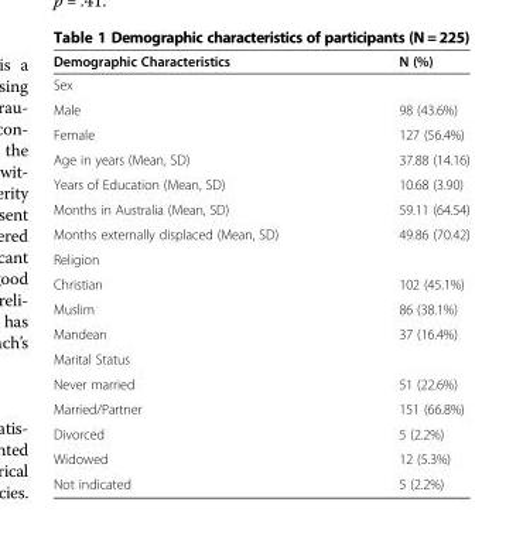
<table><thead><tr><td>Demographic Characteristics</td><td>N (%)</td></tr></thead><tbody><tr><td colspan="2">Sex</td></tr><tr><td>Male</td><td>98 (43.6%)</td></tr><tr><td>Female</td><td>127 (56.4%)</td></tr><tr><td>Age in years (Mean, SD)</td><td>37.88 (14.16)</td></tr><tr><td>Years of Education (Mean, SD)</td><td>10.68 (3.90)</td></tr><tr><td>Months in Australia (Mean, SD)</td><td>59.11 (64.54)</td></tr><tr><td>Months externally displaced (Mean, SD)</td><td>49.86 (70.42)</td></tr><tr><td colspan="2">Religion</td></tr><tr><td>Christian</td><td>102 (45.1%)</td></tr><tr><td>Muslim</td><td>86 (38.1%)</td></tr><tr><td>Mandean</td><td>37 (16.4%)</td></tr><tr><td colspan="2">Marital Status</td></tr><tr><td>Never married</td><td>51 (22.6%)</td></tr><tr><td>Married/Partner</td><td>151 (66.8%)</td></tr><tr><td>Divorced</td><td>5 (2.2%)</td></tr><tr><td>Widowed</td><td>12 (5.3%)</td></tr><tr><td>Not indicated</td><td>5 (2.2%)</td></tr></tbody></table>